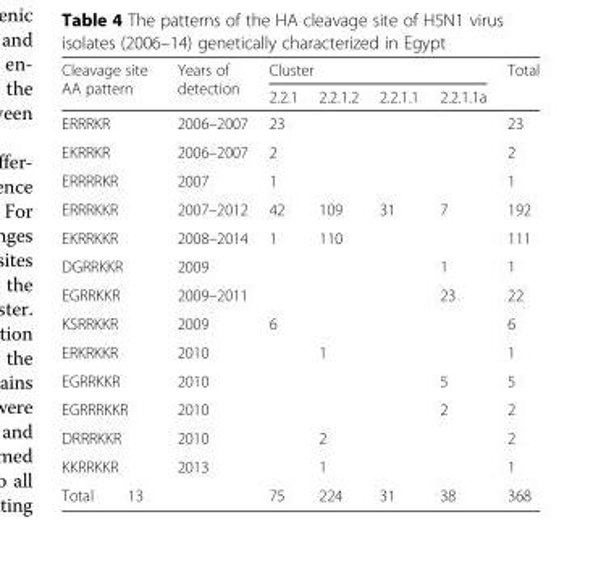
<table><thead><tr><td rowspan="2" colspan="2">Cleavage site AA pattern</td><td rowspan="2">Years of detection</td><td colspan="4">Cluster</td><td rowspan="2">Total</td></tr><tr><td>2.2.1</td><td>2.2.1.2</td><td>2.2.1.1</td><td>2.2.1.1a</td></tr></thead><tbody><tr><td colspan="2">ERRRKR</td><td>2006–2007</td><td>23</td><td></td><td></td><td></td><td>23</td></tr><tr><td colspan="2">EKRRKR</td><td>2006–2007</td><td>2</td><td></td><td></td><td></td><td>2</td></tr><tr><td colspan="2">ERRRRKR</td><td>2007</td><td>1</td><td></td><td></td><td></td><td>1</td></tr><tr><td colspan="2">ERRRKKR</td><td>2007–2012</td><td>42</td><td>109</td><td>31</td><td>7</td><td>192</td></tr><tr><td colspan="2">EKRRKKR</td><td>2008–2014</td><td>1</td><td>110</td><td></td><td></td><td>111</td></tr><tr><td colspan="2">DGRRKKR</td><td>2009</td><td></td><td></td><td></td><td>1</td><td>1</td></tr><tr><td colspan="2">EGRRKKR</td><td>2009–2011</td><td></td><td></td><td></td><td>23</td><td>22</td></tr><tr><td colspan="2">KSRRKKR</td><td>2009</td><td>6</td><td></td><td></td><td></td><td>6</td></tr><tr><td colspan="2">ERKRKKR</td><td>2010</td><td></td><td>1</td><td></td><td></td><td>1</td></tr><tr><td colspan="2">EGRRKKR</td><td>2010</td><td></td><td></td><td></td><td>5</td><td>5</td></tr><tr><td colspan="2">EGRRRKKR</td><td>2010</td><td></td><td></td><td></td><td>2</td><td>2</td></tr><tr><td colspan="2">DRRRKKR</td><td>2010</td><td></td><td>2</td><td></td><td></td><td>2</td></tr><tr><td colspan="2">KKRRKKR</td><td>2013</td><td></td><td>1</td><td></td><td></td><td>1</td></tr><tr><td>Total</td><td>13</td><td></td><td>75</td><td>224</td><td>31</td><td>38</td><td>368</td></tr></tbody></table>